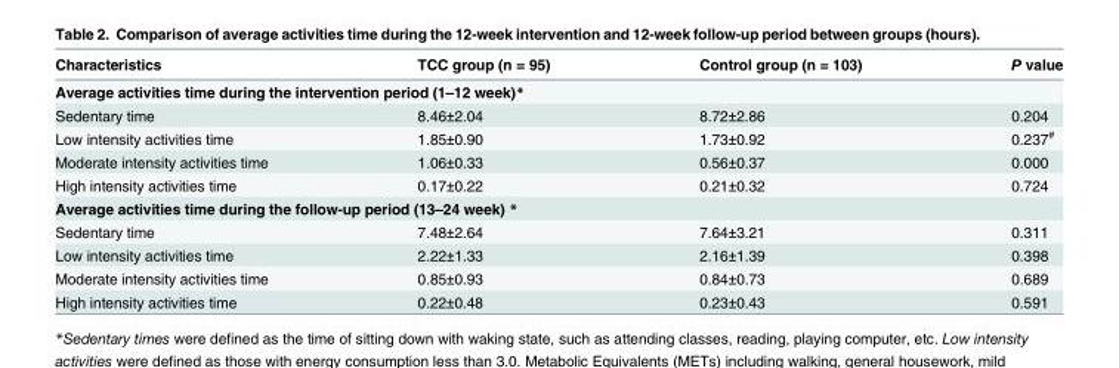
<table><thead><tr><td>Characteristics</td><td>TCC group (n = 95)</td><td>Control group (n = 103)</td><td>P value</td></tr></thead><tbody><tr><td colspan="4">Average activities time during the intervention period (1–12 week)*</td></tr><tr><td>Sedentary time</td><td>8.46±2.04</td><td>8.72±2.86</td><td>0.204</td></tr><tr><td>Low intensity activities time</td><td>1.85±0.90</td><td>1.73±0.92</td><td>0.237<sup>#</sup></td></tr><tr><td>Moderate intensity activities time</td><td>1.06±0.33</td><td>0.56±0.37</td><td>0.000</td></tr><tr><td>High intensity activities time</td><td>0.17±0.22</td><td>0.21±0.32</td><td>0.724</td></tr><tr><td colspan="4">Average activities time during the follow-up period (13–24 week) *</td></tr><tr><td>Sedentary time</td><td>7.48±2.64</td><td>7.64±3.21</td><td>0.311</td></tr><tr><td>Low intensity activities time</td><td>2.22±1.33</td><td>2.16±1.39</td><td>0.398</td></tr><tr><td>Moderate intensity activities time</td><td>0.85±0.93</td><td>0.84±0.73</td><td>0.689</td></tr><tr><td>High intensity activities time</td><td>0.22±0.48</td><td>0.23±0.43</td><td>0.591</td></tr></tbody></table>